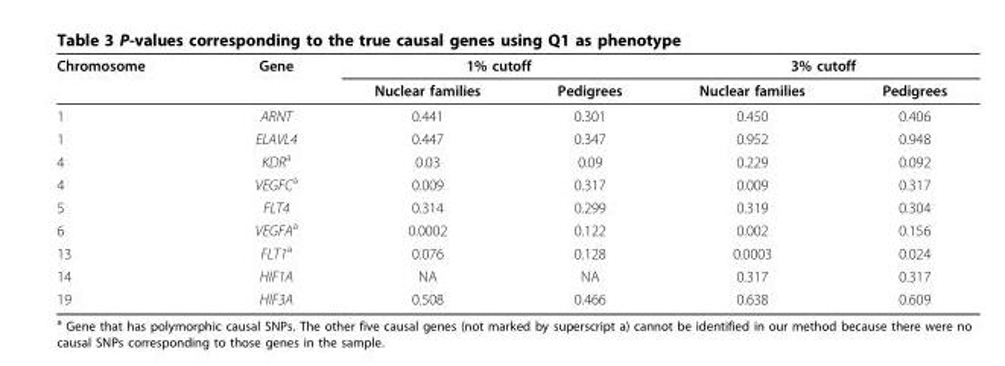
<table><thead><tr><td rowspan="2">Chromosome</td><td rowspan="2">Gene</td><td colspan="2">1% cutoff</td><td colspan="2">3% cutoff</td></tr><tr><td>Nuclear families</td><td>Pedigrees</td><td>Nuclear families</td><td>Pedigrees</td></tr></thead><tbody><tr><td>1</td><td>ARNT</td><td>0.441</td><td>0.301</td><td>0.450</td><td>0.406</td></tr><tr><td>1</td><td>ELAVL4</td><td>0.447</td><td>0.347</td><td>0.952</td><td>0.948</td></tr><tr><td>4</td><td>KDR<sup>a</sup></td><td>0.03</td><td>0.09</td><td>0.229</td><td>0.092</td></tr><tr><td>4</td><td>VEGFC<sup>a</sup></td><td>0.009</td><td>0.317</td><td>0.009</td><td>0.317</td></tr><tr><td>5</td><td>FLT4</td><td>0.314</td><td>0.299</td><td>0.319</td><td>0.304</td></tr><tr><td>6</td><td>VEGFA<sup>a</sup></td><td>0.0002</td><td>0.122</td><td>0.002</td><td>0.156</td></tr><tr><td>13</td><td>FLT1<sup>a</sup></td><td>0.076</td><td>0.128</td><td>0.0003</td><td>0.024</td></tr><tr><td>14</td><td>HIF1A</td><td>NA</td><td>NA</td><td>0.317</td><td>0.317</td></tr><tr><td>19</td><td>HIF3A</td><td>0.508</td><td>0.466</td><td>0.638</td><td>0.609</td></tr></tbody></table>